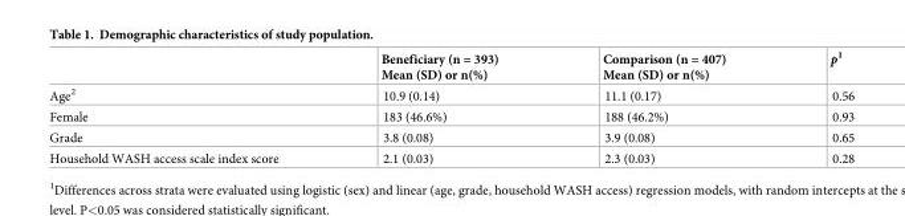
<table><thead><tr><td></td><td>Beneficiary (n = 393) Mean (SD) or n(%)</td><td>Comparison (n = 407) Mean (SD) or n(%)</td><td>p<sup>1</sup></td></tr></thead><tbody><tr><td>Age<sup>2</sup></td><td>10.9 (0.14)</td><td>11.1 (0.17)</td><td>0.56</td></tr><tr><td>Female</td><td>183 (46.6%)</td><td>188 (46.2%)</td><td>0.93</td></tr><tr><td>Grade</td><td>3.8 (0.08)</td><td>3.9 (0.08)</td><td>0.65</td></tr><tr><td>Household WASH access scale index score</td><td>2.1 (0.03)</td><td>2.3 (0.03)</td><td>0.28</td></tr></tbody></table>